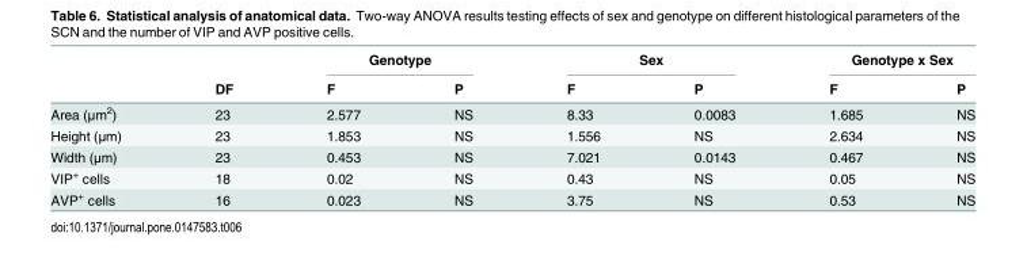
<table><thead><tr><td rowspan="2"></td><td rowspan="2">DF</td><td colspan="2">Genotype</td><td colspan="2">Sex</td><td colspan="2">Genotype x Sex</td></tr><tr><td>F</td><td>P</td><td>F</td><td>P</td><td>F</td><td>P</td></tr></thead><tbody><tr><td>Area (μm<sup>2</sup>)</td><td>23</td><td>2.577</td><td>NS</td><td>8.33</td><td>0.0083</td><td>1.685</td><td>NS</td></tr><tr><td>Height (μm)</td><td>23</td><td>1.853</td><td>NS</td><td>1.556</td><td>NS</td><td>2.634</td><td>NS</td></tr><tr><td>Width (μm)</td><td>23</td><td>0.453</td><td>NS</td><td>7.021</td><td>0.0143</td><td>0.467</td><td>NS</td></tr><tr><td>VIP<sup>+</sup> cells</td><td>18</td><td>0.02</td><td>NS</td><td>0.43</td><td>NS</td><td>0.05</td><td>NS</td></tr><tr><td>AVP<sup>+</sup> cells</td><td>16</td><td>0.023</td><td>NS</td><td>3.75</td><td>NS</td><td>0.53</td><td>NS</td></tr></tbody></table>